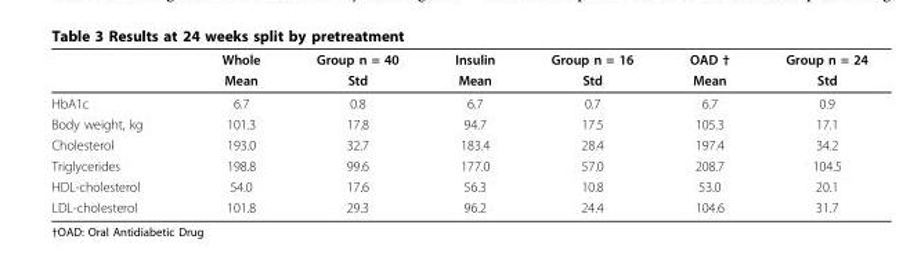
<table><thead><tr><td rowspan="2"></td><td rowspan="2">Whole Mean</td><td rowspan="2">Group n = 40 Std</td><td rowspan="2">Insulin Mean</td><td rowspan="2">Group n = 16 Std</td><td rowspan="2">OAD † Mean</td><td rowspan="2">Group n = 24 Std</td></tr><tr></tr></thead><tbody><tr><td>HbA1c</td><td>6.7</td><td>0.8</td><td>6.7</td><td>0.7</td><td>6.7</td><td>0.9</td></tr><tr><td>Body weight, kg</td><td>101.3</td><td>17.8</td><td>94.7</td><td>17.5</td><td>105.3</td><td>17.1</td></tr><tr><td>Cholesterol</td><td>193.0</td><td>32.7</td><td>183.4</td><td>28.4</td><td>197.4</td><td>34.2</td></tr><tr><td>Triglycerides</td><td>198.8</td><td>99.6</td><td>177.0</td><td>57.0</td><td>208.7</td><td>104.5</td></tr><tr><td>HDL-cholesterol</td><td>54.0</td><td>17.6</td><td>56.3</td><td>10.8</td><td>53.0</td><td>20.1</td></tr><tr><td>LDL-cholesterol</td><td>101.8</td><td>29.3</td><td>96.2</td><td>24.4</td><td>104.6</td><td>31.7</td></tr></tbody></table>